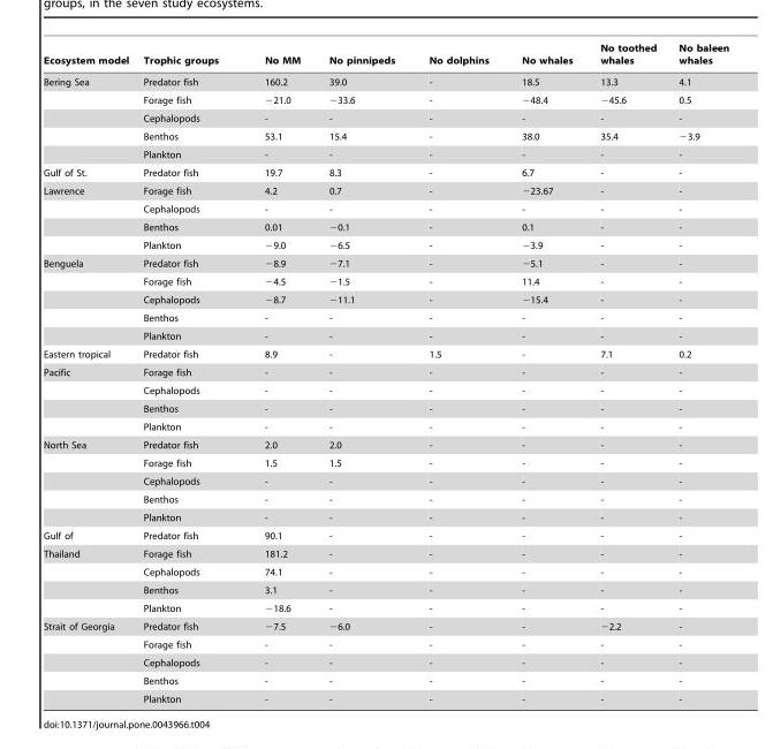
<table><thead><tr><td>Ecosystem model</td><td>Trophic groups</td><td>No MM</td><td>No pinnipeds</td><td>No dolphins</td><td>No whales</td><td>No toothed whales</td><td>No baleen whales</td></tr></thead><tbody><tr><td rowspan="5">Bering Sea</td><td>Predator fish</td><td>160.2</td><td>39.0</td><td>-</td><td>18.5</td><td>13.3</td><td>4.1</td></tr><tr><td>Forage fish</td><td>−21.0</td><td>−33.6</td><td>-</td><td>−48.4</td><td>−45.6</td><td>0.5</td></tr><tr><td>Cephalopods</td><td>-</td><td>-</td><td>-</td><td>-</td><td>-</td><td>-</td></tr><tr><td>Benthos</td><td>53.1</td><td>15.4</td><td>-</td><td>38.0</td><td>35.4</td><td>−3.9</td></tr><tr><td>Plankton</td><td>-</td><td>-</td><td>-</td><td>-</td><td>-</td><td>-</td></tr><tr><td>Gulf of St.</td><td>Predator fish</td><td>19.7</td><td>8.3</td><td>-</td><td>6.7</td><td>-</td><td>-</td></tr><tr><td rowspan="4">Lawrence</td><td>Forage fish</td><td>4.2</td><td>0.7</td><td>-</td><td>−23.67</td><td>-</td><td>-</td></tr><tr><td>Cephalopods</td><td>-</td><td>-</td><td>-</td><td>-</td><td>-</td><td>-</td></tr><tr><td>Benthos</td><td>0.01</td><td>−0.1</td><td>-</td><td>0.1</td><td>-</td><td>-</td></tr><tr><td>Plankton</td><td>−9.0</td><td>−6.5</td><td>-</td><td>−3.9</td><td>-</td><td>-</td></tr><tr><td rowspan="5">Benguela</td><td>Predator fish</td><td>−8.9</td><td>−7.1</td><td>-</td><td>−5.1</td><td>-</td><td>-</td></tr><tr><td>Forage fish</td><td>−4.5</td><td>−1.5</td><td>-</td><td>11.4</td><td>-</td><td>-</td></tr><tr><td>Cephalopods</td><td>−8.7</td><td>−11.1</td><td>-</td><td>−15.4</td><td>-</td><td>-</td></tr><tr><td>Benthos</td><td>-</td><td>-</td><td>-</td><td>-</td><td>-</td><td>-</td></tr><tr><td>Plankton</td><td>-</td><td>-</td><td>-</td><td>-</td><td>-</td><td>-</td></tr><tr><td>Eastern tropical</td><td>Predator fish</td><td>8.9</td><td>-</td><td>1.5</td><td>-</td><td>7.1</td><td>0.2</td></tr><tr><td rowspan="4">Pacific</td><td>Forage fish</td><td>-</td><td>-</td><td>-</td><td>-</td><td>-</td><td>-</td></tr><tr><td>Cephalopods</td><td>-</td><td>-</td><td>-</td><td>-</td><td>-</td><td>-</td></tr><tr><td>Benthos</td><td>-</td><td>-</td><td>-</td><td>-</td><td>-</td><td>-</td></tr><tr><td>Plankton</td><td>-</td><td>-</td><td>-</td><td>-</td><td>-</td><td>-</td></tr><tr><td rowspan="5">North Sea</td><td>Predator fish</td><td>2.0</td><td>2.0</td><td>-</td><td>-</td><td>-</td><td>-</td></tr><tr><td>Forage fish</td><td>1.5</td><td>1.5</td><td>-</td><td>-</td><td>-</td><td>-</td></tr><tr><td>Cephalopods</td><td>-</td><td>-</td><td>-</td><td>-</td><td>-</td><td>-</td></tr><tr><td>Benthos</td><td>-</td><td>-</td><td>-</td><td>-</td><td>-</td><td>-</td></tr><tr><td>Plankton</td><td>-</td><td>-</td><td>-</td><td>-</td><td>-</td><td>-</td></tr><tr><td>Gulf of</td><td>Predator fish</td><td>90.1</td><td>-</td><td>-</td><td>-</td><td>-</td><td>-</td></tr><tr><td rowspan="4">Thailand</td><td>Forage fish</td><td>181.2</td><td>-</td><td>-</td><td>-</td><td>-</td><td>-</td></tr><tr><td>Cephalopods</td><td>74.1</td><td>-</td><td>-</td><td>-</td><td>-</td><td>-</td></tr><tr><td>Benthos</td><td>3.1</td><td>-</td><td>-</td><td>-</td><td>-</td><td>-</td></tr><tr><td>Plankton</td><td>−18.6</td><td>-</td><td>-</td><td>-</td><td>-</td><td>-</td></tr><tr><td rowspan="5">Strait of Georgia</td><td>Predator fish</td><td>−7.5</td><td>−6.0</td><td>-</td><td>-</td><td>−2.2</td><td>-</td></tr><tr><td>Forage fish</td><td>-</td><td>-</td><td>-</td><td>-</td><td>-</td><td>-</td></tr><tr><td>Cephalopods</td><td>-</td><td>-</td><td>-</td><td>-</td><td>-</td><td>-</td></tr><tr><td>Benthos</td><td>-</td><td>-</td><td>-</td><td>-</td><td>-</td><td>-</td></tr><tr><td>Plankton</td><td>-</td><td>-</td><td>-</td><td>-</td><td>-</td><td>-</td></tr></tbody></table>